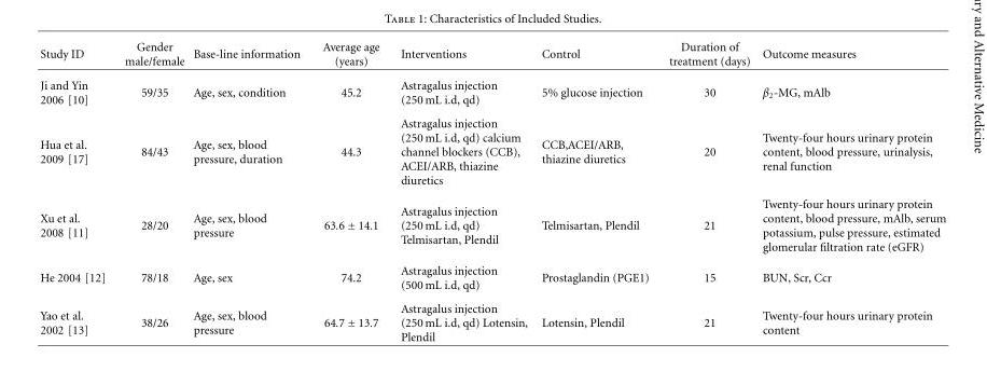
<table><thead><tr><td>Study ID</td><td>Gender male/female</td><td>Base-line information</td><td>Average age (years)</td><td>Interventions</td><td>Control</td><td>Duration of treatment (days)</td><td>Outcome measures</td></tr></thead><tbody><tr><td>Ji and Yin 2006 [10]</td><td>59/35</td><td>Age, sex, condition</td><td>45.2</td><td>Astragalus injection (250 mL i.d, qd)</td><td>5% glucose injection</td><td>30</td><td>β<sub>2</sub>-MG, mAlb</td></tr><tr><td>Hua et al. 2009 [17]</td><td>84/43</td><td>Age, sex, blood pressure, duration</td><td>44.3</td><td>Astragalus injection (250 mL i.d, qd) calcium channel blockers (CCB), ACEI/ARB, thiazine diuretics</td><td>CCB,ACEI/ARB, thiazine diuretics</td><td>20</td><td>Twenty-four hours urinary protein content, blood pressure, urinalysis, renal function</td></tr><tr><td>Xu et al. 2008 [11]</td><td>28/20</td><td>Age, sex, blood pressure</td><td>63.6 ± 14.1</td><td>Astragalus injection (250 mL i.d, qd) Telmisartan, Plendil</td><td>Telmisartan, Plendil</td><td>21</td><td>Twenty-four hours urinary protein content, blood pressure, mAlb, serum potassium, pulse pressure, estimated glomerular filtration rate (eGFR)</td></tr><tr><td>He 2004 [12]</td><td>78/18</td><td>Age, sex</td><td>74.2</td><td>Astragalus injection (500 mL i.d, qd)</td><td>Prostaglandin (PGE1)</td><td>15</td><td>BUN, Scr, Ccr</td></tr><tr><td>Yao et al. 2002 [13]</td><td>38/26</td><td>Age, sex, blood pressure</td><td>64.7 ± 13.7</td><td>Astragalus injection (250 mL i.d, qd) Lotensin, Plendil</td><td>Lotensin, Plendil</td><td>21</td><td>Twenty-four hours urinary protein content</td></tr></tbody></table>